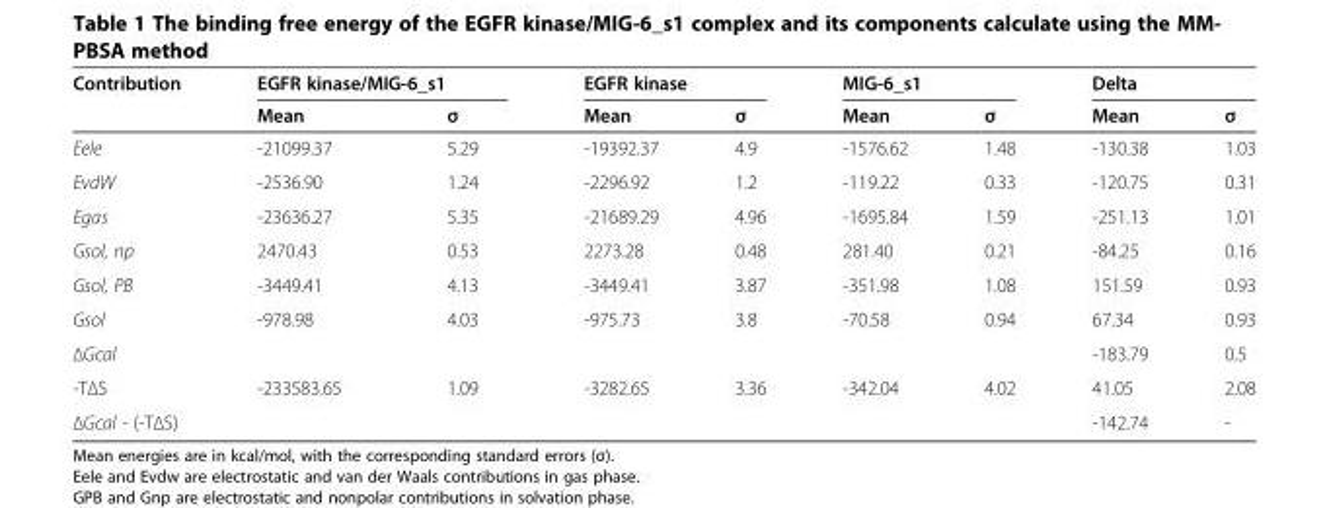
<table><thead><tr><td rowspan="2">Contribution</td><td colspan="2">EGFR kinase/MIG-6_s1</td><td colspan="2">EGFR kinase</td><td colspan="2">MIG-6_s1</td><td colspan="2">Delta</td></tr><tr><td>Mean</td><td>σ</td><td>Mean</td><td>σ</td><td>Mean</td><td>σ</td><td>Mean</td><td>σ</td></tr></thead><tbody><tr><td>Eele</td><td>-21099.37</td><td>5.29</td><td>-19392.37</td><td>4.9</td><td>-1576.62</td><td>1.48</td><td>-130.38</td><td>1.03</td></tr><tr><td>EvdW</td><td>-2536.90</td><td>1.24</td><td>-2296.92</td><td>1.2</td><td>-119.22</td><td>0.33</td><td>-120.75</td><td>0.31</td></tr><tr><td>Egas</td><td>-23636.27</td><td>5.35</td><td>-21689.29</td><td>4.96</td><td>-1695.84</td><td>1.59</td><td>-251.13</td><td>1.01</td></tr><tr><td>Gsol, np</td><td>2470.43</td><td>0.53</td><td>2273.28</td><td>0.48</td><td>281.40</td><td>0.21</td><td>-84.25</td><td>0.16</td></tr><tr><td>Gsol, PB</td><td>-3449.41</td><td>4.13</td><td>-3449.41</td><td>3.87</td><td>-351.98</td><td>1.08</td><td>151.59</td><td>0.93</td></tr><tr><td>Gsol</td><td>-978.98</td><td>4.03</td><td>-975.73</td><td>3.8</td><td>-70.58</td><td>0.94</td><td>67.34</td><td>0.93</td></tr><tr><td>ΔGcal</td><td></td><td></td><td></td><td></td><td></td><td></td><td>-183.79</td><td>0.5</td></tr><tr><td>-TΔS</td><td>-233583.65</td><td>1.09</td><td>-3282.65</td><td>3.36</td><td>-342.04</td><td>4.02</td><td>41.05</td><td>2.08</td></tr><tr><td>ΔGcal - (-TΔS)</td><td></td><td></td><td></td><td></td><td></td><td></td><td>-142.74</td><td>-</td></tr></tbody></table>